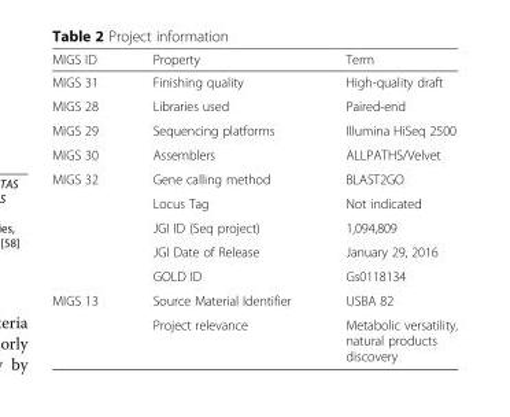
<table><thead><tr><td>MIGS ID</td><td>Property</td><td>Term</td></tr></thead><tbody><tr><td>MIGS 31</td><td>Finishing quality</td><td>High-quality draft</td></tr><tr><td>MIGS 28</td><td>Libraries used</td><td>Paired-end</td></tr><tr><td>MIGS 29</td><td>Sequencing platforms</td><td>Illumina HiSeq 2500</td></tr><tr><td>MIGS 30</td><td>Assemblers</td><td>ALLPATHS/Velvet</td></tr><tr><td rowspan="5">MIGS 32</td><td>Gene calling method</td><td>BLAST2GO</td></tr><tr><td>Locus Tag</td><td>Not indicated</td></tr><tr><td>JGI ID (Seq project)</td><td>1,094,809</td></tr><tr><td>JGI Date of Release</td><td>January 29, 2016</td></tr><tr><td>GOLD ID</td><td>Gs0118134</td></tr><tr><td rowspan="2">MIGS 13</td><td>Source Material Identifier</td><td>USBA 82</td></tr><tr><td>Project relevance</td><td>Metabolic versatility, natural products discovery</td></tr></tbody></table>